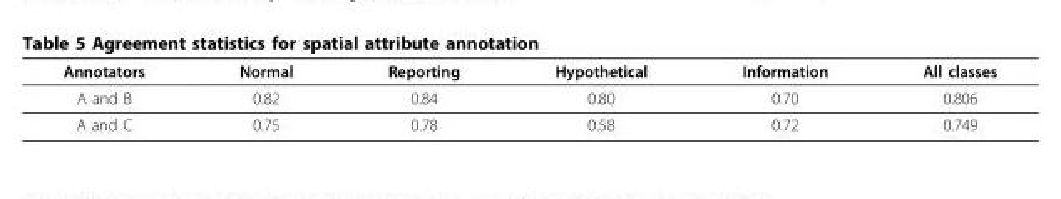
<table><thead><tr><td>Annotators</td><td>Normal</td><td>Reporting</td><td>Hypothetical</td><td>Information</td><td>All classes</td></tr></thead><tbody><tr><td>A and B</td><td>0.82</td><td>0.84</td><td>0.80</td><td>0.70</td><td>0.806</td></tr><tr><td>A and C</td><td>0.75</td><td>0.78</td><td>0.58</td><td>0.72</td><td>0.749</td></tr></tbody></table>